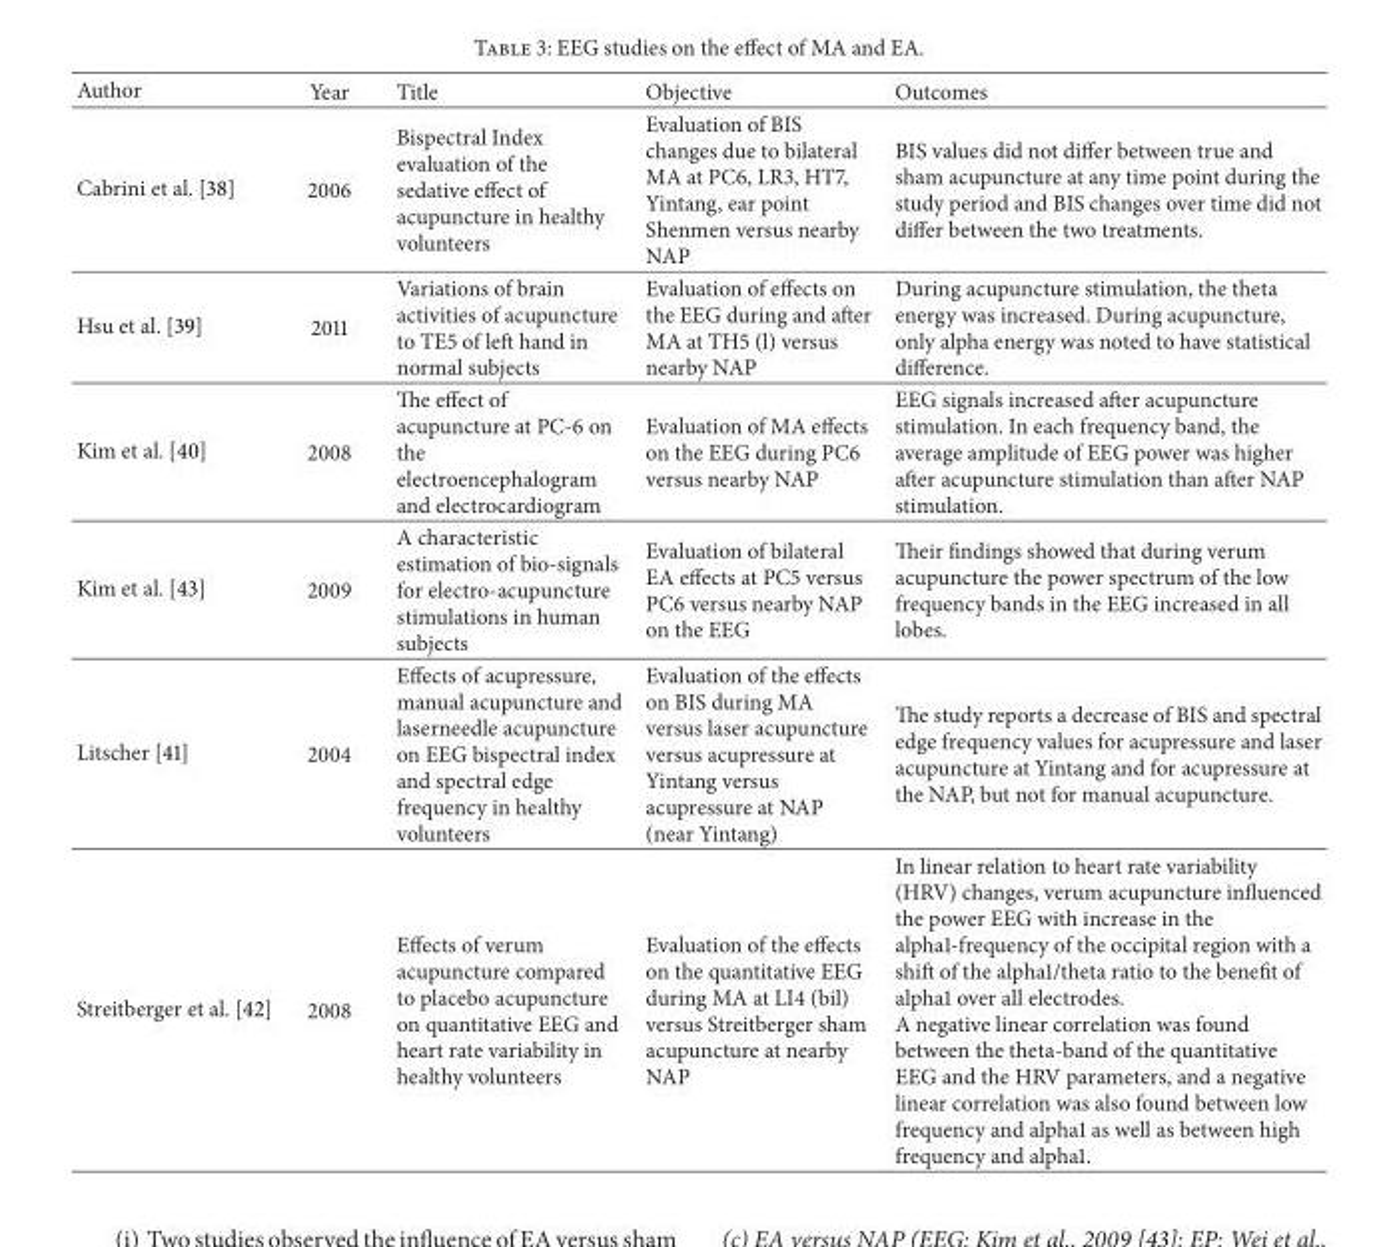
<table><thead><tr><td>Author</td><td>Year</td><td>Title</td><td>Objective</td><td>Outcomes</td></tr></thead><tbody><tr><td>Cabrini et al. [38]</td><td>2006</td><td>Bispectral Index evaluation of the sedative effect of acupuncture in healthy volunteers</td><td>Evaluation of BIS changes due to bilateral MA at PC6, LR3, HT7, Yintang, ear point Shenmen versus nearby NAP</td><td>BIS values did not differ between true and sham acupuncture at any time point during the study period and BIS changes over time did not differ between the two treatments.</td></tr><tr><td>Hsu et al. [39]</td><td>2011</td><td>Variations of brain activities of acupuncture to TE5 of left hand in normal subjects</td><td>Evaluation of effects on the EEG during and after MA at TH5 (l) versus nearby NAP</td><td>During acupuncture stimulation, the theta energy was increased. During acupuncture, only alpha energy was noted to have statistical difference.</td></tr><tr><td>Kim et al. [40]</td><td>2008</td><td>The effect of acupuncture at PC-6 on the electroencephalogram and electrocardiogram</td><td>Evaluation of MA effects on the EEG during PC6 versus nearby NAP</td><td>EEG signals increased after acupuncture stimulation. In each frequency band, the average amplitude of EEG power was higher after acupuncture stimulation than after NAP stimulation.</td></tr><tr><td>Kim et al. [43]</td><td>2009</td><td>A characteristic estimation of bio-signals for electro-acupuncture stimulations in human subjects</td><td>Evaluation of bilateral EA effects at PC5 versus PC6 versus nearby NAP on the EEG</td><td>Their findings showed that during verum acupuncture the power spectrum of the low frequency bands in the EEG increased in all lobes.</td></tr><tr><td>Litscher [41]</td><td>2004</td><td>Effects of acupressure, manual acupuncture and laserneedle acupuncture on EEG bispectral index and spectral edge frequency in healthy volunteers</td><td>Evaluation of the effects on BIS during MA versus laser acupuncture versus acupressure at Yintang versus acupressure at NAP (near Yintang)</td><td>The study reports a decrease of BIS and spectral edge frequency values for acupressure and laser acupuncture at Yintang and for acupressure at the NAP, but not for manual acupuncture.</td></tr><tr><td>Streitberger et al. [42]</td><td>2008</td><td>Effects of verum acupuncture compared to placebo acupuncture on quantitative EEG and heart rate variability in healthy volunteers</td><td>Evaluation of the effects on the quantitative EEG during MA at LI4 (bil) versus Streitberger sham acupuncture at nearby NAP</td><td>In linear relation to heart rate variability (HRV) changes, verum acupuncture influenced the power EEG with increase in the alpha1-frequency of the occipital region with a shift of the alpha1/theta ratio to the benefit of alpha1 over all electrodes. A negative linear correlation was found between the theta-band of the quantitative EEG and the HRV parameters, and a negative linear correlation was also found between low frequency and alpha1 as well as between high frequency and alpha1.</td></tr></tbody></table>